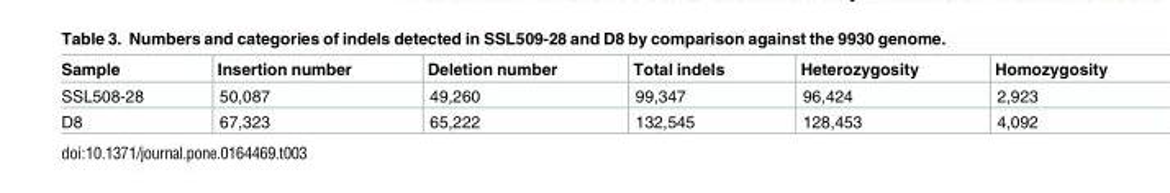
<table><thead><tr><td>Sample</td><td>Insertion number</td><td>Deletion number</td><td>Total indels</td><td>Heterozygosity</td><td>Homozygosity</td></tr></thead><tbody><tr><td>SSL508-28</td><td>50,087</td><td>49,260</td><td>99,347</td><td>96,424</td><td>2,923</td></tr><tr><td>D8</td><td>67,323</td><td>65,222</td><td>132,545</td><td>128,453</td><td>4,092</td></tr></tbody></table>